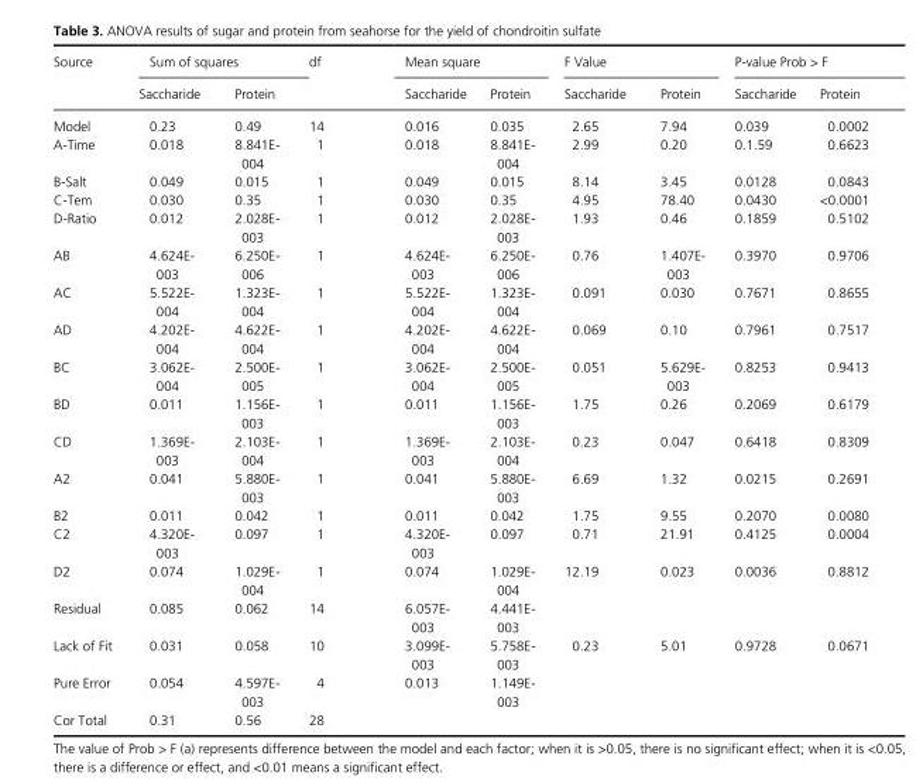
<table><thead><tr><td rowspan="2">Source</td><td colspan="2">Sum of squares</td><td rowspan="2">df</td><td colspan="2">Mean square</td><td colspan="2">F Value</td><td colspan="2">P - value Prob &gt; F</td></tr><tr><td>Saccharide</td><td>Protein</td><td>Saccharide</td><td>Protein</td><td>Saccharide</td><td>Protein</td><td>Saccharide</td><td>Protein</td></tr></thead><tbody><tr><td>Model</td><td>0.23</td><td>0.49</td><td>14</td><td>0.016</td><td>0.035</td><td>2.65</td><td>7.94</td><td>0.039</td><td>0.0002</td></tr><tr><td>A- Time</td><td>0.018</td><td>8.841E- 004</td><td>1</td><td>0.018</td><td>8.841E- 004</td><td>2.99</td><td>0.20</td><td>0.1.59</td><td>0.6623</td></tr><tr><td>B- Salt</td><td>0.049</td><td>0.015</td><td>1</td><td>0.049</td><td>0.015</td><td>8.14</td><td>3.45</td><td>0.0128</td><td>0.0843</td></tr><tr><td>C- Tem</td><td>0.030</td><td>0.35</td><td>1</td><td>0.030</td><td>0.35</td><td>4.95</td><td>78.40</td><td>0.0430</td><td>&lt;0.0001</td></tr><tr><td>D- Ratio</td><td>0.012</td><td>2.028E- 003</td><td>1</td><td>0.012</td><td>2.028E- 003</td><td>1.93</td><td>0.46</td><td>0.1859</td><td>0.5102</td></tr><tr><td>AB</td><td>4.624E- 003</td><td>6.250E- 006</td><td>1</td><td>4.624E- 003</td><td>6.250E- 006</td><td>0.76</td><td>1.407E- 003</td><td>0.3970</td><td>0.9706</td></tr><tr><td>AC</td><td>5.522E- 004</td><td>1.323E- 004</td><td>1</td><td>5.522E- 004</td><td>1.323E- 004</td><td>0.091</td><td>0.030</td><td>0.7671</td><td>0.8655</td></tr><tr><td>AD</td><td>4.202E- 004</td><td>4.622E- 004</td><td>1</td><td>4.202E- 004</td><td>4.622E- 004</td><td>0.069</td><td>0.10</td><td>0.7961</td><td>0.7517</td></tr><tr><td>BC</td><td>3.062E- 004</td><td>2.500E- 005</td><td>1</td><td>3.062E- 004</td><td>2.500E- 005</td><td>0.051</td><td>5.629E- 003</td><td>0.8253</td><td>0.9413</td></tr><tr><td>BD</td><td>0.011</td><td>1.156E- 003</td><td>1</td><td>0.011</td><td>1.156E- 003</td><td>1.75</td><td>0.26</td><td>0.2069</td><td>0.6179</td></tr><tr><td>CD</td><td>1.369E- 003</td><td>2.103E- 004</td><td>1</td><td>1.369E- 003</td><td>2.103E- 004</td><td>0.23</td><td>0.047</td><td>0.6418</td><td>0.8309</td></tr><tr><td>A2</td><td>0.041</td><td>5.880E- 003</td><td>1</td><td>0.041</td><td>5.880E- 003</td><td>6.69</td><td>1.32</td><td>0.0215</td><td>0.2691</td></tr><tr><td>B2</td><td>0.011</td><td>0.042</td><td>1</td><td>0.011</td><td>0.042</td><td>1.75</td><td>9.55</td><td>0.2070</td><td>0.0080</td></tr><tr><td>C2</td><td>4.320E- 003</td><td>0.097</td><td>1</td><td>4.320E- 003</td><td>0.097</td><td>0.71</td><td>21.91</td><td>0.4125</td><td>0.0004</td></tr><tr><td>D2</td><td>0.074</td><td>1.029E- 004</td><td>1</td><td>0.074</td><td>1.029E- 004</td><td>12.19</td><td>0.023</td><td>0.0036</td><td>0.8812</td></tr><tr><td>Residual</td><td>0.085</td><td>0.062</td><td>14</td><td>6.057E- 003</td><td>4.441E- 003</td><td></td><td></td><td></td><td></td></tr><tr><td>Lack of Fit</td><td>0.031</td><td>0.058</td><td>10</td><td>3.099E- 003</td><td>5.758E- 003</td><td>0.23</td><td>5.01</td><td>0.9728</td><td>0.0671</td></tr><tr><td>Pure Error</td><td>0.054</td><td>4.597E- 003</td><td>4</td><td>0.013</td><td>1.149E- 003</td><td></td><td></td><td></td><td></td></tr><tr><td>Cor Total</td><td>0.31</td><td>0.56</td><td>28</td><td></td><td></td><td></td><td></td><td></td><td></td></tr></tbody></table>